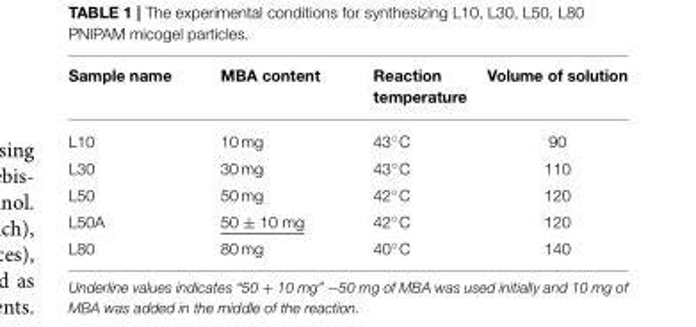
<table><thead><tr><td>Sample name</td><td>MBA content</td><td>Reaction temperature</td><td>Volume of solution</td></tr></thead><tbody><tr><td>L10</td><td>10 mg</td><td>43◦C</td><td>90</td></tr><tr><td>L30</td><td>30 mg</td><td>43◦C</td><td>110</td></tr><tr><td>L50</td><td>50 mg</td><td>42◦C</td><td>120</td></tr><tr><td>L50A</td><td>50 ± 10 mg</td><td>42◦C</td><td>120</td></tr><tr><td>L80</td><td>80 mg</td><td>40◦C</td><td>140</td></tr></tbody></table>